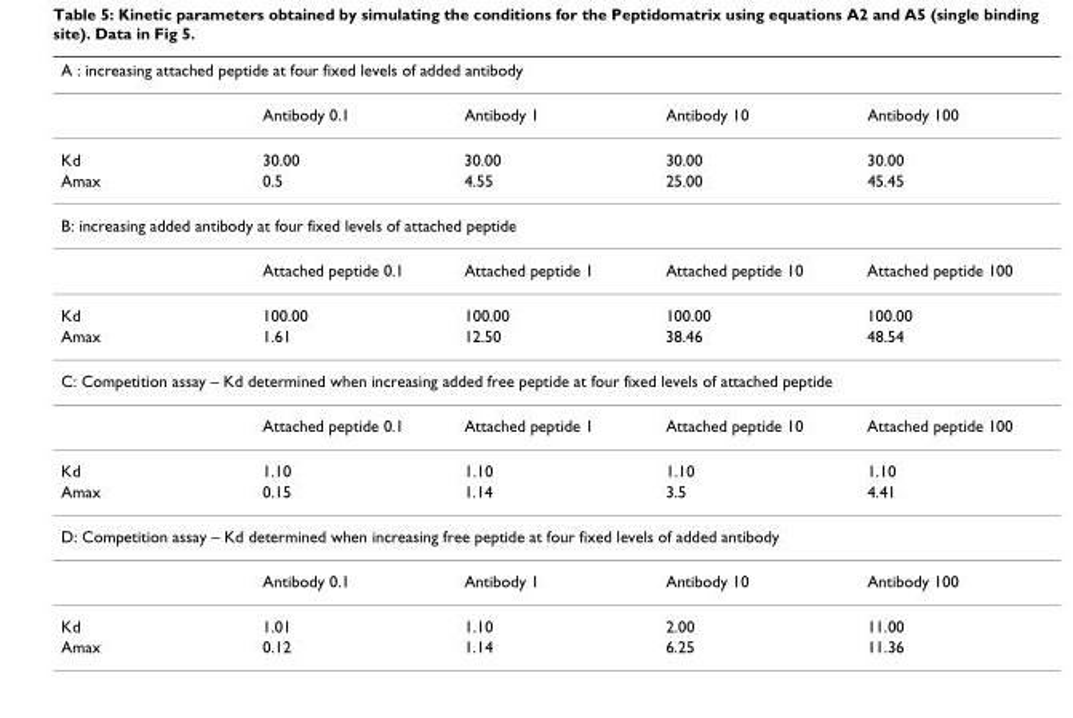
<table><thead><tr><td colspan="5">A : increasing attached peptide at four fixed levels of added antibody</td></tr><tr><td></td><td>Antibody 0.1</td><td>Antibody 1</td><td>Antibody 10</td><td>Antibody 100</td></tr></thead><tbody><tr><td>Kd</td><td>30.00</td><td>30.00</td><td>30.00</td><td>30.00</td></tr><tr><td>Amax</td><td>0.5</td><td>4.55</td><td>25.00</td><td>45.45</td></tr><tr><td colspan="5">B: increasing added antibody at four fixed levels of attached peptide</td></tr><tr><td></td><td>Attached peptide 0.1</td><td>Attached peptide 1</td><td>Attached peptide 10</td><td>Attached peptide 100</td></tr><tr><td>Kd</td><td>100.00</td><td>100.00</td><td>100.00</td><td>100.00</td></tr><tr><td>Amax</td><td>1.61</td><td>12.50</td><td>38.46</td><td>48.54</td></tr><tr><td colspan="5">C: Competition assay – Kd determined when increasing added free peptide at four fixed levels of attached peptide</td></tr><tr><td></td><td>Attached peptide 0.1</td><td>Attached peptide 1</td><td>Attached peptide 10</td><td>Attached peptide 100</td></tr><tr><td>Kd</td><td>1.10</td><td>1.10</td><td>1.10</td><td>1.10</td></tr><tr><td>Amax</td><td>0.15</td><td>1.14</td><td>3.5</td><td>4.41</td></tr><tr><td colspan="5">D: Competition assay – Kd determined when increasing free peptide at four fixed levels of added antibody</td></tr><tr><td></td><td>Antibody 0.1</td><td>Antibody 1</td><td>Antibody 10</td><td>Antibody 100</td></tr><tr><td>Kd</td><td>1.01</td><td>1.10</td><td>2.00</td><td>11.00</td></tr><tr><td>Amax</td><td>0.12</td><td>1.14</td><td>6.25</td><td>11.36</td></tr></tbody></table>